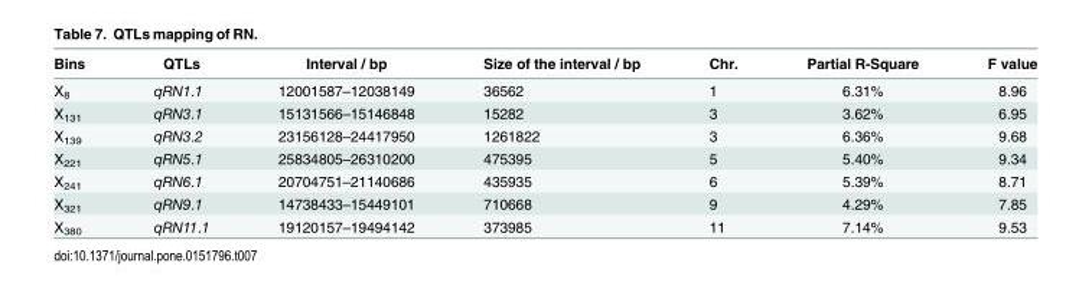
<table><thead><tr><td>Bins</td><td>QTLs</td><td>Interval / bp</td><td>Size of the interval / bp</td><td>Chr.</td><td>Partial R-Square</td><td>F value</td></tr></thead><tbody><tr><td>X<sub>8</sub></td><td>qRN1.1</td><td>12001587–12038149</td><td>36562</td><td>1</td><td>6.31%</td><td>8.96</td></tr><tr><td>X<sub>131</sub></td><td>qRN3.1</td><td>15131566–15146848</td><td>15282</td><td>3</td><td>3.62%</td><td>6.95</td></tr><tr><td>X<sub>139</sub></td><td>qRN3.2</td><td>23156128–24417950</td><td>1261822</td><td>3</td><td>6.36%</td><td>9.68</td></tr><tr><td>X<sub>221</sub></td><td>qRN5.1</td><td>25834805–26310200</td><td>475395</td><td>5</td><td>5.40%</td><td>9.34</td></tr><tr><td>X<sub>241</sub></td><td>qRN6.1</td><td>20704751–21140686</td><td>435935</td><td>6</td><td>5.39%</td><td>8.71</td></tr><tr><td>X<sub>321</sub></td><td>qRN9.1</td><td>14738433–15449101</td><td>710668</td><td>9</td><td>4.29%</td><td>7.85</td></tr><tr><td>X<sub>380</sub></td><td>qRN11.1</td><td>19120157–19494142</td><td>373985</td><td>11</td><td>7.14%</td><td>9.53</td></tr></tbody></table>